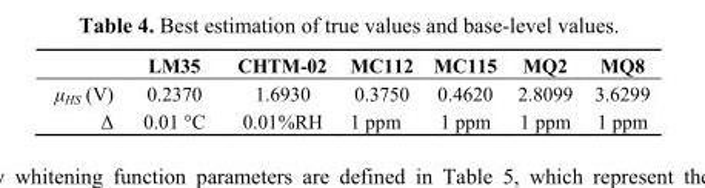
<table><thead><tr><td></td><td>LM35</td><td>CHTM-02</td><td>MC112</td><td>MC115</td><td>MQ2</td><td>MQ8</td></tr></thead><tbody><tr><td>μ<sub>HS</sub> (V)</td><td>0.2370</td><td>1.6930</td><td>0.3750</td><td>0.4620</td><td>2.8099</td><td>3.6299</td></tr><tr><td>Δ</td><td>0.01 °C</td><td>0.01%RH</td><td>1 ppm</td><td>1 ppm</td><td>1 ppm</td><td>1 ppm</td></tr></tbody></table>